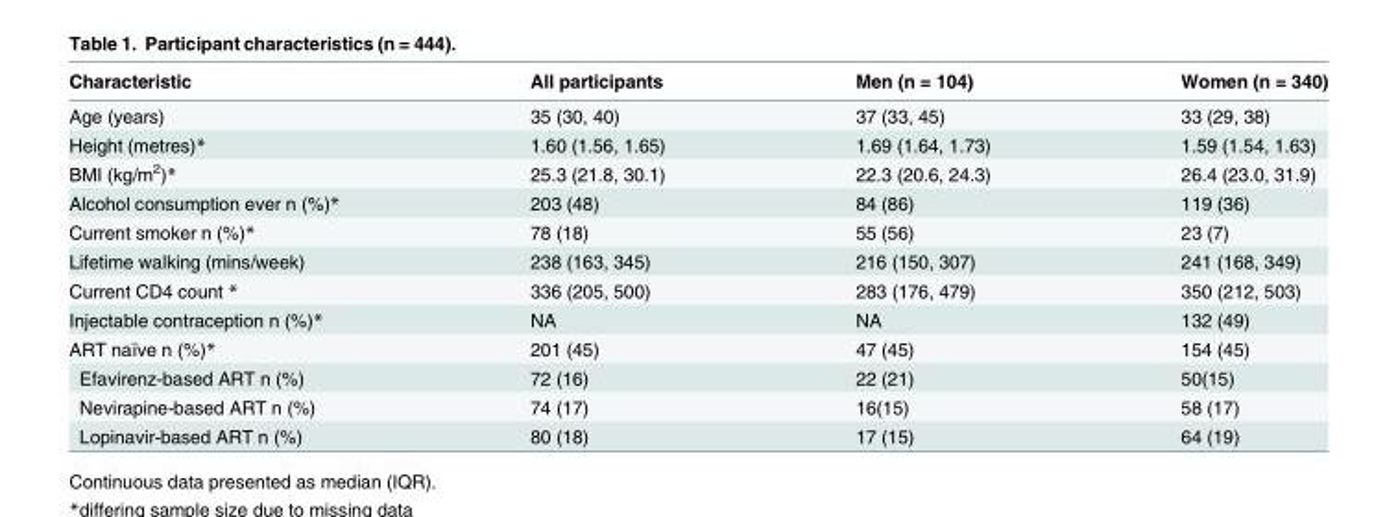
<table><thead><tr><td>Characteristic</td><td>All participants</td><td>Men (n = 104)</td><td>Women (n = 340)</td></tr></thead><tbody><tr><td>Age (years)</td><td>35 (30, 40)</td><td>37 (33, 45)</td><td>33 (29, 38)</td></tr><tr><td>Height (metres)*</td><td>1.60 (1.56, 1.65)</td><td>1.69 (1.64, 1.73)</td><td>1.59 (1.54, 1.63)</td></tr><tr><td>BMI (kg/m<sup>2</sup>)*</td><td>25.3 (21.8, 30.1)</td><td>22.3 (20.6, 24.3)</td><td>26.4 (23.0, 31.9)</td></tr><tr><td>Alcohol consumption ever n (%)*</td><td>203 (48)</td><td>84 (86)</td><td>119 (36)</td></tr><tr><td>Current smoker n (%)*</td><td>78 (18)</td><td>55 (56)</td><td>23 (7)</td></tr><tr><td>Lifetime walking (mins/week)</td><td>238 (163, 345)</td><td>216 (150, 307)</td><td>241 (168, 349)</td></tr><tr><td>Current CD4 count *</td><td>336 (205, 500)</td><td>283 (176, 479)</td><td>350 (212, 503)</td></tr><tr><td>Injectable contraception n (%)*</td><td>NA</td><td>NA</td><td>132 (49)</td></tr><tr><td>ART naïve n (%)*</td><td>201 (45)</td><td>47 (45)</td><td>154 (45)</td></tr><tr><td>Efavirenz-based ART n (%)</td><td>72 (16)</td><td>22 (21)</td><td>50(15)</td></tr><tr><td>Nevirapine-based ART n (%)</td><td>74 (17)</td><td>16(15)</td><td>58 (17)</td></tr><tr><td>Lopinavir-based ART n (%)</td><td>80 (18)</td><td>17 (15)</td><td>64 (19)</td></tr></tbody></table>